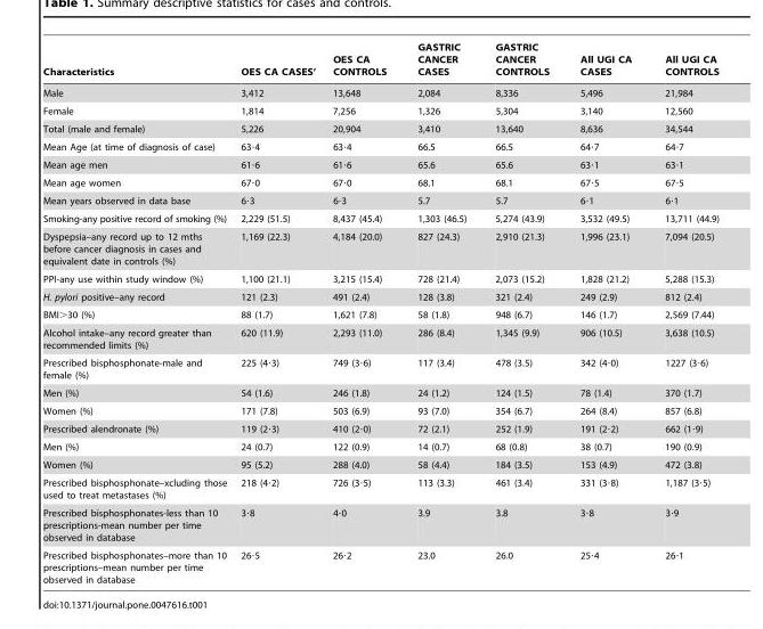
<table><thead><tr><td>Characteristics</td><td>OES CA CASES’</td><td>OES CA CONTROLS</td><td>GASTRIC CANCER CASES</td><td>GASTRIC CANCER CONTROLS</td><td>All UGI CA CASES</td><td>All UGI CA CONTROLS</td></tr></thead><tbody><tr><td>Male</td><td>3,412</td><td>13,648</td><td>2,084</td><td>8,336</td><td>5,496</td><td>21,984</td></tr><tr><td>Female</td><td>1,814</td><td>7,256</td><td>1,326</td><td>5,304</td><td>3,140</td><td>12,560</td></tr><tr><td>Total (male and female)</td><td>5,226</td><td>20,904</td><td>3,410</td><td>13,640</td><td>8,636</td><td>34,544</td></tr><tr><td>Mean Age (at time of diagnosis of case)</td><td>63·4</td><td>63·4</td><td>66.5</td><td>66.5</td><td>64·7</td><td>64·7</td></tr><tr><td>Mean age men</td><td>61·6</td><td>61·6</td><td>65.6</td><td>65.6</td><td>63·1</td><td>63·1</td></tr><tr><td>Mean age women</td><td>67·0</td><td>67·0</td><td>68.1</td><td>68.1</td><td>67·5</td><td>67·5</td></tr><tr><td>Mean years observed in data base</td><td>6·3</td><td>6·3</td><td>5.7</td><td>5.7</td><td>6·1</td><td>6·1</td></tr><tr><td>Smoking-any positive record of smoking (%)</td><td>2,229 (51.5)</td><td>8,437 (45.4)</td><td>1,303 (46.5)</td><td>5,274 (43.9)</td><td>3,532 (49.5)</td><td>13,711 (44.9)</td></tr><tr><td>Dyspepsia–any record up to 12 mths before cancer diagnosis in cases and equivalent date in controls (%)</td><td>1,169 (22.3)</td><td>4,184 (20.0)</td><td>827 (24.3)</td><td>2,910 (21.3)</td><td>1,996 (23.1)</td><td>7,094 (20.5)</td></tr><tr><td>PPI-any use within study window (%)</td><td>1,100 (21.1)</td><td>3,215 (15.4)</td><td>728 (21.4)</td><td>2,073 (15.2)</td><td>1,828 (21.2)</td><td>5,288 (15.3)</td></tr><tr><td>H. pylori positive–any record</td><td>121 (2.3)</td><td>491 (2.4)</td><td>128 (3.8)</td><td>321 (2.4)</td><td>249 (2.9)</td><td>812 (2.4)</td></tr><tr><td>BMI&gt;30 (%)</td><td>88 (1.7)</td><td>1,621 (7.8)</td><td>58 (1.8)</td><td>948 (6.7)</td><td>146 (1.7)</td><td>2,569 (7.44)</td></tr><tr><td>Alcohol intake–any record greater than recommended limits (%)</td><td>620 (11.9)</td><td>2,293 (11.0)</td><td>286 (8.4)</td><td>1,345 (9.9)</td><td>906 (10.5)</td><td>3,638 (10.5)</td></tr><tr><td>Prescribed bisphosphonate-male and female (%)</td><td>225 (4·3)</td><td>749 (3·6)</td><td>117 (3.4)</td><td>478 (3.5)</td><td>342 (4·0)</td><td>1227 (3·6)</td></tr><tr><td>Men (%)</td><td>54 (1.6)</td><td>246 (1.8)</td><td>24 (1.2)</td><td>124 (1.5)</td><td>78 (1.4)</td><td>370 (1.7)</td></tr><tr><td>Women (%)</td><td>171 (7.8)</td><td>503 (6.9)</td><td>93 (7.0)</td><td>354 (6.7)</td><td>264 (8.4)</td><td>857 (6.8)</td></tr><tr><td>Prescribed alendronate (%)</td><td>119 (2·3)</td><td>410 (2·0)</td><td>72 (2.1)</td><td>252 (1.9)</td><td>191 (2·2)</td><td>662 (1·9)</td></tr><tr><td>Men (%)</td><td>24 (0.7)</td><td>122 (0.9)</td><td>14 (0.7)</td><td>68 (0.8)</td><td>38 (0.7)</td><td>190 (0.9)</td></tr><tr><td>Women (%)</td><td>95 (5.2)</td><td>288 (4.0)</td><td>58 (4.4)</td><td>184 (3.5)</td><td>153 (4.9)</td><td>472 (3.8)</td></tr><tr><td>Prescribed bisphosphonate–xcluding those used to treat metastases (%)</td><td>218 (4·2)</td><td>726 (3·5)</td><td>113 (3.3)</td><td>461 (3.4)</td><td>331 (3·8)</td><td>1,187 (3·5)</td></tr><tr><td>Prescribed bisphosphonates-less than 10 prescriptions-mean number per time observed in database</td><td>3·8</td><td>4·0</td><td>3.9</td><td>3.8</td><td>3·8</td><td>3·9</td></tr><tr><td>Prescribed bisphosphonates–more than 10 prescriptions–mean number per time observed in database</td><td>26·5</td><td>26·2</td><td>23.0</td><td>26.0</td><td>25·4</td><td>26·1</td></tr></tbody></table>